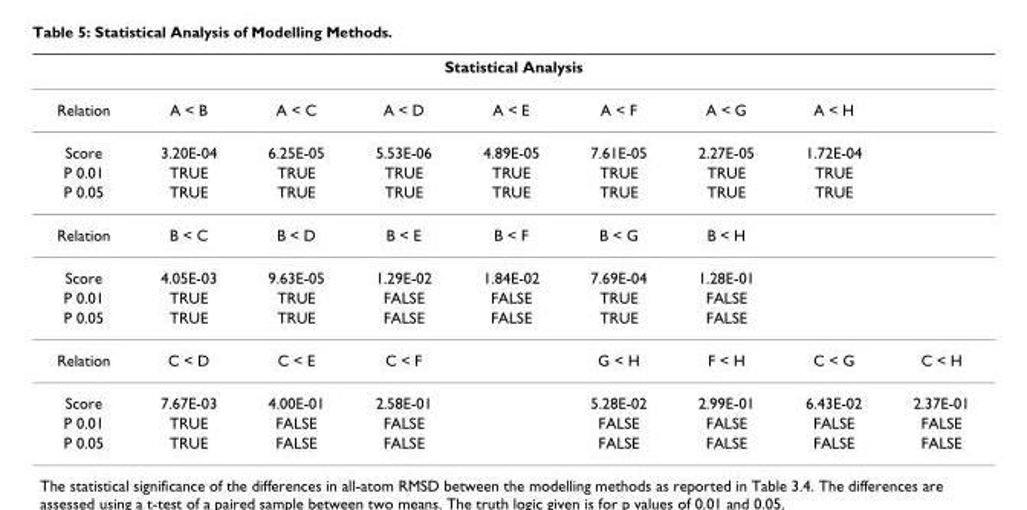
<table><thead><tr><td colspan="9">Statistical Analysis</td></tr><tr><td>Relation</td><td>A &lt; B</td><td>A &lt; C</td><td>A &lt; D</td><td>A &lt; E</td><td>A &lt; F</td><td>A &lt; G</td><td>A &lt; H</td><td></td></tr></thead><tbody><tr><td>Score</td><td>3.20E-04</td><td>6.25E-05</td><td>5.53E-06</td><td>4.89E-05</td><td>7.61E-05</td><td>2.27E-05</td><td>1.72E-04</td><td></td></tr><tr><td>P 0.01</td><td>TRUE</td><td>TRUE</td><td>TRUE</td><td>TRUE</td><td>TRUE</td><td>TRUE</td><td>TRUE</td><td></td></tr><tr><td>P 0.05</td><td>TRUE</td><td>TRUE</td><td>TRUE</td><td>TRUE</td><td>TRUE</td><td>TRUE</td><td>TRUE</td><td></td></tr><tr><td>Relation</td><td>B &lt; C</td><td>B &lt; D</td><td>B &lt; E</td><td>B &lt; F</td><td>B &lt; G</td><td>B &lt; H</td><td></td><td></td></tr><tr><td>Score</td><td>4.05E-03</td><td>9.63E-05</td><td>1.29E-02</td><td>1.84E-02</td><td>7.69E-04</td><td>1.28E-01</td><td></td><td></td></tr><tr><td>P 0.01</td><td>TRUE</td><td>TRUE</td><td>FALSE</td><td>FALSE</td><td>TRUE</td><td>FALSE</td><td></td><td></td></tr><tr><td>P 0.05</td><td>TRUE</td><td>TRUE</td><td>FALSE</td><td>FALSE</td><td>TRUE</td><td>FALSE</td><td></td><td></td></tr><tr><td>Relation</td><td>C &lt; D</td><td>C &lt; E</td><td>C &lt; F</td><td></td><td>G &lt; H</td><td>F &lt; H</td><td>C &lt; G</td><td>C &lt; H</td></tr><tr><td>Score</td><td>7.67E-03</td><td>4.00E-01</td><td>2.58E-01</td><td></td><td>5.28E-02</td><td>2.99E-01</td><td>6.43E-02</td><td>2.37E-01</td></tr><tr><td>P 0.01</td><td>TRUE</td><td>FALSE</td><td>FALSE</td><td></td><td>FALSE</td><td>FALSE</td><td>FALSE</td><td>FALSE</td></tr><tr><td>P 0.05</td><td>TRUE</td><td>FALSE</td><td>FALSE</td><td></td><td>FALSE</td><td>FALSE</td><td>FALSE</td><td>FALSE</td></tr></tbody></table>